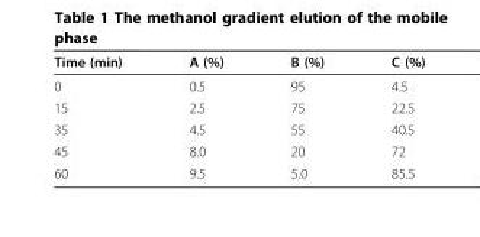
<table><thead><tr><td>Time (min)</td><td>A (%)</td><td>B (%)</td><td>C (%)</td></tr></thead><tbody><tr><td>0</td><td>0.5</td><td>95</td><td>4.5</td></tr><tr><td>15</td><td>2.5</td><td>75</td><td>22.5</td></tr><tr><td>35</td><td>4.5</td><td>55</td><td>40.5</td></tr><tr><td>45</td><td>8.0</td><td>20</td><td>72</td></tr><tr><td>60</td><td>9.5</td><td>5.0</td><td>85.5</td></tr></tbody></table>